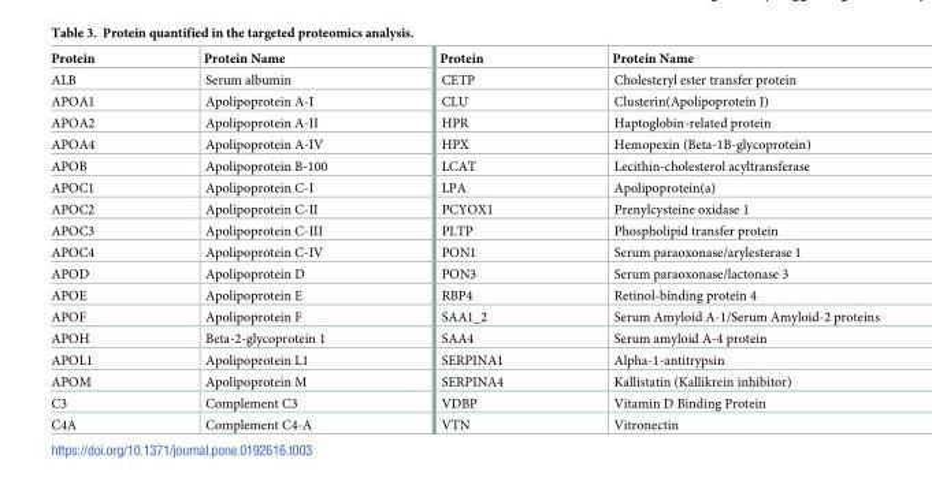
<table><thead><tr><td>Protein</td><td>Protein Name</td><td>Protein</td><td>Protein Name</td></tr></thead><tbody><tr><td>ALB</td><td>Serum albumin</td><td>CETP</td><td>Cholesteryl ester transfer protein</td></tr><tr><td>APOA1</td><td>Apolipoprotein A-I</td><td>CLU</td><td>Clusterin(Apolipoprotein J)</td></tr><tr><td>APOA2</td><td>Apolipoprotein A-II</td><td>HPR</td><td>Haptoglobin-related protein</td></tr><tr><td>APOA4</td><td>Apolipoprotein A-IV</td><td>HPX</td><td>Hemopexin (Beta-1B-glycoprotein)</td></tr><tr><td>APOB</td><td>Apolipoprotein B-100</td><td>LCAT</td><td>Lecithin-cholesterol acyltransferase</td></tr><tr><td>APOC1</td><td>Apolipoprotein C-I</td><td>LPA</td><td>Apolipoprotein(a)</td></tr><tr><td>APOC2</td><td>Apolipoprotein C-II</td><td>PCYOX1</td><td>Prenylcysteine oxidase 1</td></tr><tr><td>APOC3</td><td>Apolipoprotein C-III</td><td>PLTP</td><td>Phospholipid transfer protein</td></tr><tr><td>APOC4</td><td>Apolipoprotein C-IV</td><td>PON1</td><td>Serum paraoxonase/arylesterase 1</td></tr><tr><td>APOD</td><td>Apolipoprotein D</td><td>PON3</td><td>Serum paraoxonase/lactonase 3</td></tr><tr><td>APOE</td><td>Apolipoprotein E</td><td>RBP4</td><td>Retinol-binding protein 4</td></tr><tr><td>APOF</td><td>Apolipoprotein F</td><td>SAA1_2</td><td>Serum Amyloid A-1/Serum Amyloid-2 proteins</td></tr><tr><td>APOH</td><td>Beta-2-glycoprotein 1</td><td>SAA4</td><td>Serum amyloid A-4 protein</td></tr><tr><td>APOL1</td><td>Apolipoprotein L1</td><td>SERPINA1</td><td>Alpha-1-antitrypsin</td></tr><tr><td>APOM</td><td>Apolipoprotein M</td><td>SERPINA4</td><td>Kallistatin (Kallikrein inhibitor)</td></tr><tr><td>C3</td><td>Complement C3</td><td>VDBP</td><td>Vitamin D Binding Protein</td></tr><tr><td>C4A</td><td>Complement C4-A</td><td>VTN</td><td>Vitronectin</td></tr></tbody></table>